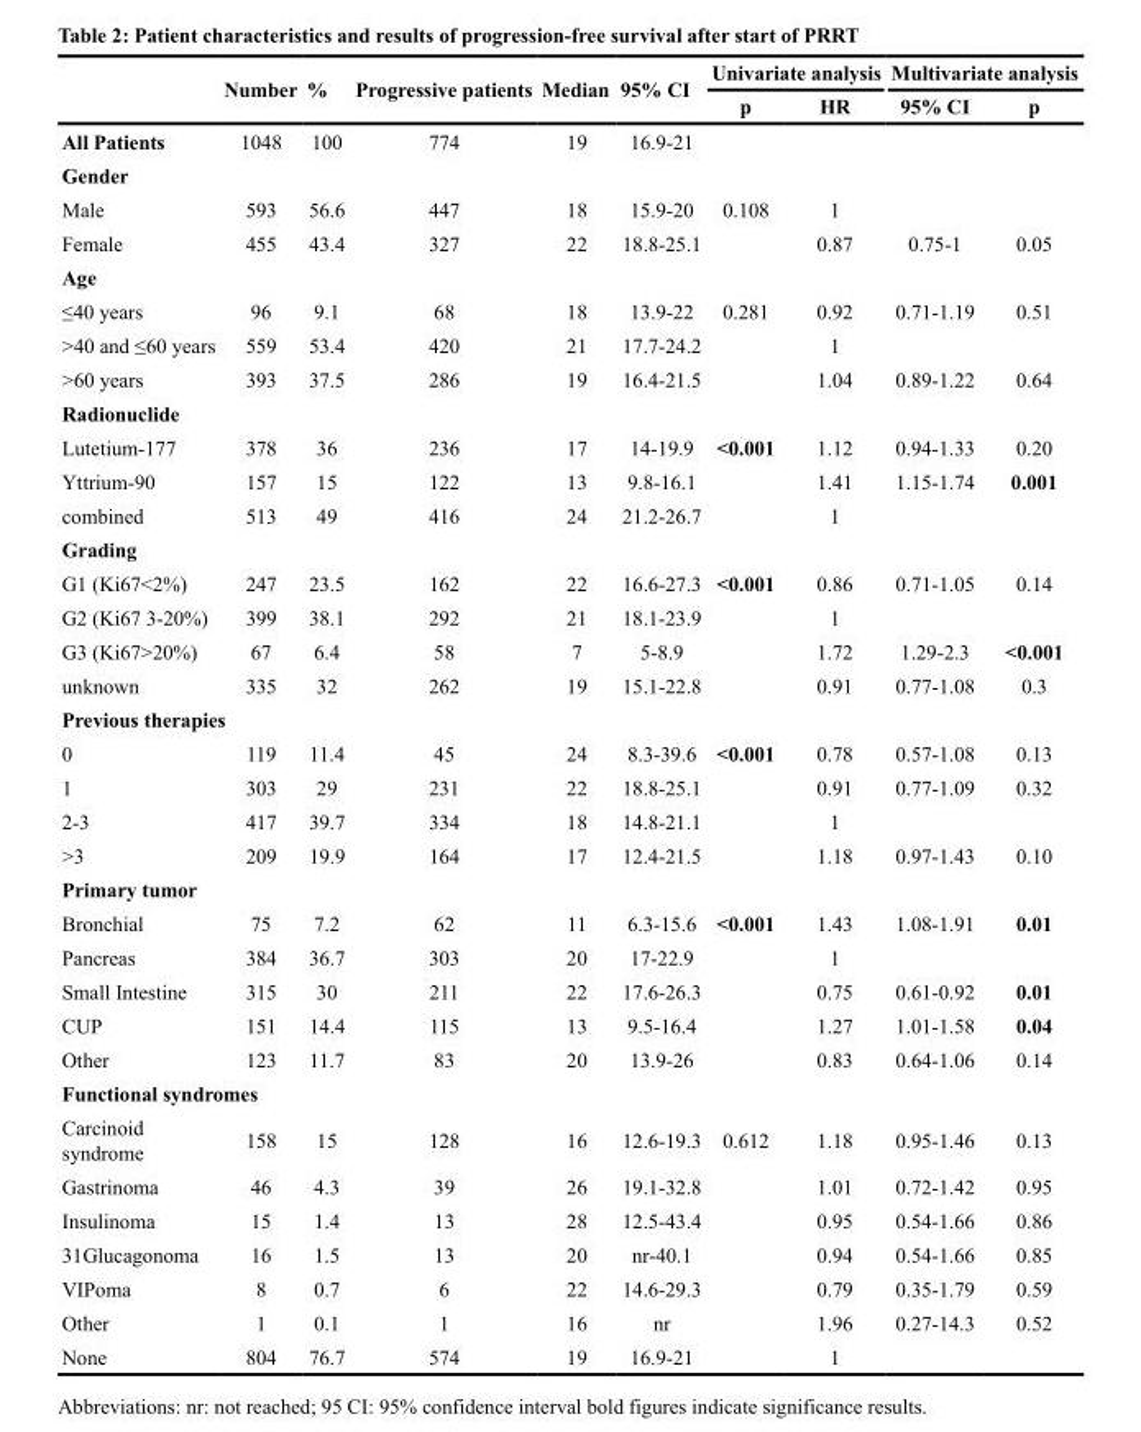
<table><thead><tr><td rowspan="2"></td><td rowspan="2">Number</td><td rowspan="2">%</td><td rowspan="2">Progressive patients</td><td rowspan="2">Median</td><td rowspan="2">95% CI</td><td colspan="2">Univariate analysis</td><td colspan="2">Multivariate analysis</td></tr><tr><td>p</td><td>HR</td><td>95% CI</td><td>p</td></tr></thead><tbody><tr><td>All Patients</td><td>1048</td><td>100</td><td>774</td><td>19</td><td>16.9-21</td><td></td><td></td><td></td><td></td></tr><tr><td colspan="10">Gender</td></tr><tr><td>Male</td><td>593</td><td>56.6</td><td>447</td><td>18</td><td>15.9-20</td><td>0.108</td><td>1</td><td></td><td></td></tr><tr><td>Female</td><td>455</td><td>43.4</td><td>327</td><td>22</td><td>18.8-25.1</td><td></td><td>0.87</td><td>0.75-1</td><td>0.05</td></tr><tr><td colspan="10">Age</td></tr><tr><td>≤40 years</td><td>96</td><td>9.1</td><td>68</td><td>18</td><td>13.9-22</td><td>0.281</td><td>0.92</td><td>0.71-1.19</td><td>0.51</td></tr><tr><td>&gt;40 and ≤60 years</td><td>559</td><td>53.4</td><td>420</td><td>21</td><td>17.7-24.2</td><td></td><td>1</td><td></td><td></td></tr><tr><td>&gt;60 years</td><td>393</td><td>37.5</td><td>286</td><td>19</td><td>16.4-21.5</td><td></td><td>1.04</td><td>0.89-1.22</td><td>0.64</td></tr><tr><td colspan="10">Radionuclide</td></tr><tr><td>Lutetium-177</td><td>378</td><td>36</td><td>236</td><td>17</td><td>14-19.9</td><td>&lt;0.001</td><td>1.12</td><td>0.94-1.33</td><td>0.20</td></tr><tr><td>Yttrium-90</td><td>157</td><td>15</td><td>122</td><td>13</td><td>9.8-16.1</td><td></td><td>1.41</td><td>1.15-1.74</td><td>0.001</td></tr><tr><td>combined</td><td>513</td><td>49</td><td>416</td><td>24</td><td>21.2-26.7</td><td></td><td>1</td><td></td><td></td></tr><tr><td colspan="10">Grading</td></tr><tr><td>G1 (Ki67&lt;2%)</td><td>247</td><td>23.5</td><td>162</td><td>22</td><td>16.6-27.3</td><td>&lt;0.001</td><td>0.86</td><td>0.71-1.05</td><td>0.14</td></tr><tr><td>G2 (Ki67 3-20%)</td><td>399</td><td>38.1</td><td>292</td><td>21</td><td>18.1-23.9</td><td></td><td>1</td><td></td><td></td></tr><tr><td>G3 (Ki67&gt;20%)</td><td>67</td><td>6.4</td><td>58</td><td>7</td><td>5-8.9</td><td></td><td>1.72</td><td>1.29-2.3</td><td>&lt;0.001</td></tr><tr><td>unknown</td><td>335</td><td>32</td><td>262</td><td>19</td><td>15.1-22.8</td><td></td><td>0.91</td><td>0.77-1.08</td><td>0.3</td></tr><tr><td colspan="10">Previous therapies</td></tr><tr><td>0</td><td>119</td><td>11.4</td><td>45</td><td>24</td><td>8.3-39.6</td><td>&lt;0.001</td><td>0.78</td><td>0.57-1.08</td><td>0.13</td></tr><tr><td>1</td><td>303</td><td>29</td><td>231</td><td>22</td><td>18.8-25.1</td><td></td><td>0.91</td><td>0.77-1.09</td><td>0.32</td></tr><tr><td>2-3</td><td>417</td><td>39.7</td><td>334</td><td>18</td><td>14.8-21.1</td><td></td><td>1</td><td></td><td></td></tr><tr><td>&gt;3</td><td>209</td><td>19.9</td><td>164</td><td>17</td><td>12.4-21.5</td><td></td><td>1.18</td><td>0.97-1.43</td><td>0.10</td></tr><tr><td colspan="10">Primary tumor</td></tr><tr><td>Bronchial</td><td>75</td><td>7.2</td><td>62</td><td>11</td><td>6.3-15.6</td><td>&lt;0.001</td><td>1.43</td><td>1.08-1.91</td><td>0.01</td></tr><tr><td>Pancreas</td><td>384</td><td>36.7</td><td>303</td><td>20</td><td>17-22.9</td><td></td><td>1</td><td></td><td></td></tr><tr><td>Small Intestine</td><td>315</td><td>30</td><td>211</td><td>22</td><td>17.6-26.3</td><td></td><td>0.75</td><td>0.61-0.92</td><td>0.01</td></tr><tr><td>CUP</td><td>151</td><td>14.4</td><td>115</td><td>13</td><td>9.5-16.4</td><td></td><td>1.27</td><td>1.01-1.58</td><td>0.04</td></tr><tr><td>Other</td><td>123</td><td>11.7</td><td>83</td><td>20</td><td>13.9-26</td><td></td><td>0.83</td><td>0.64-1.06</td><td>0.14</td></tr><tr><td colspan="10">Functional syndromes</td></tr><tr><td>Carcinoid syndrome</td><td>158</td><td>15</td><td>128</td><td>16</td><td>12.6-19.3</td><td>0.612</td><td>1.18</td><td>0.95-1.46</td><td>0.13</td></tr><tr><td>Gastrinoma</td><td>46</td><td>4.3</td><td>39</td><td>26</td><td>19.1-32.8</td><td></td><td>1.01</td><td>0.72-1.42</td><td>0.95</td></tr><tr><td>Insulinoma</td><td>15</td><td>1.4</td><td>13</td><td>28</td><td>12.5-43.4</td><td></td><td>0.95</td><td>0.54-1.66</td><td>0.86</td></tr><tr><td>31Glucagonoma</td><td>16</td><td>1.5</td><td>13</td><td>20</td><td>nr-40.1</td><td></td><td>0.94</td><td>0.54-1.66</td><td>0.85</td></tr><tr><td>VIPoma</td><td>8</td><td>0.7</td><td>6</td><td>22</td><td>14.6-29.3</td><td></td><td>0.79</td><td>0.35-1.79</td><td>0.59</td></tr><tr><td>Other</td><td>1</td><td>0.1</td><td>1</td><td>16</td><td>nr</td><td></td><td>1.96</td><td>0.27-14.3</td><td>0.52</td></tr><tr><td>None</td><td>804</td><td>76.7</td><td>574</td><td>19</td><td>16.9-21</td><td></td><td>1</td><td></td><td></td></tr></tbody></table>